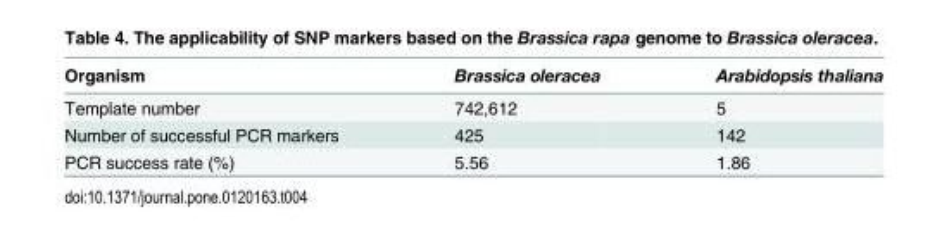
<table><thead><tr><td>Organism</td><td>Brassica oleracea</td><td>Arabidopsis thaliana</td></tr></thead><tbody><tr><td>Template number</td><td>742,612</td><td>5</td></tr><tr><td>Number of successful PCR markers</td><td>425</td><td>142</td></tr><tr><td>PCR success rate (%)</td><td>5.56</td><td>1.86</td></tr></tbody></table>